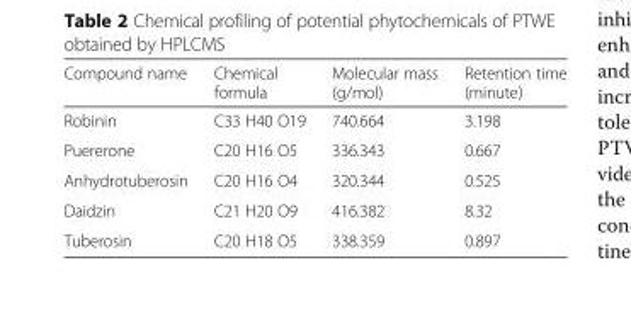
<table><thead><tr><td>Compound name</td><td>Chemical formula</td><td>Molecular mass (g/mol)</td><td>Retention time (minute)</td></tr></thead><tbody><tr><td>Robinin</td><td>C33 H40 O19</td><td>740.664</td><td>3.198</td></tr><tr><td>Puererone</td><td>C20 H16 O5</td><td>336.343</td><td>0.667</td></tr><tr><td>Anhydrotuberosin</td><td>C20 H16 O4</td><td>320.344</td><td>0.525</td></tr><tr><td>Daidzin</td><td>C21 H20 O9</td><td>416.382</td><td>8.32</td></tr><tr><td>Tuberosin</td><td>C20 H18 O5</td><td>338.359</td><td>0.897</td></tr></tbody></table>